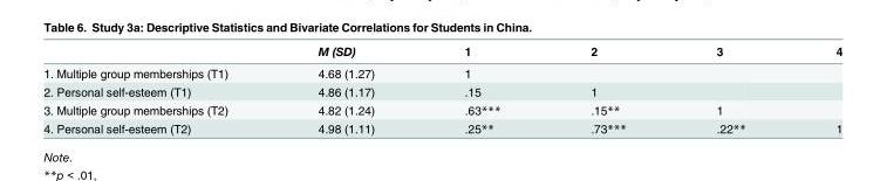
<table><thead><tr><td></td><td>M (SD)</td><td>1</td><td>2</td><td>3</td><td>4</td></tr></thead><tbody><tr><td>1. Multiple group memberships (T1)</td><td>4.68 (1.27)</td><td>1</td><td></td><td></td><td></td></tr><tr><td>2. Personal self-esteem (T1)</td><td>4.86 (1.17)</td><td>.15</td><td>1</td><td></td><td></td></tr><tr><td>3. Multiple group memberships (T2)</td><td>4.82 (1.24)</td><td>.63***</td><td>.15**</td><td>1</td><td></td></tr><tr><td>4. Personal self-esteem (T2)</td><td>4.98 (1.11)</td><td>.25**</td><td>.73***</td><td>.22**</td><td>1</td></tr></tbody></table>